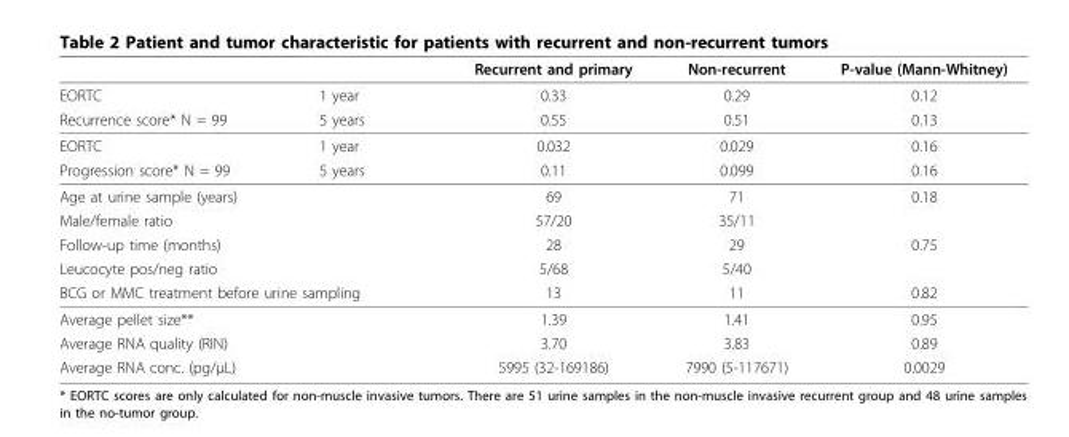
<table><thead><tr><td></td><td></td><td>Recurrent and primary</td><td>Non-recurrent</td><td>P-value (Mann-Whitney)</td></tr></thead><tbody><tr><td>EORTC</td><td>1 year</td><td>0.33</td><td>0.29</td><td>0.12</td></tr><tr><td>Recurrence score* N = 99</td><td>5 years</td><td>0.55</td><td>0.51</td><td>0.13</td></tr><tr><td>EORTC</td><td>1 year</td><td>0.032</td><td>0.029</td><td>0.16</td></tr><tr><td>Progression score* N = 99</td><td>5 years</td><td>0.11</td><td>0.099</td><td>0.16</td></tr><tr><td colspan="2">Age at urine sample (years)</td><td>69</td><td>71</td><td>0.18</td></tr><tr><td colspan="2">Male/female ratio</td><td>57/20</td><td>35/11</td><td></td></tr><tr><td colspan="2">Follow-up time (months)</td><td>28</td><td>29</td><td>0.75</td></tr><tr><td colspan="2">Leucocyte pos/neg ratio</td><td>5/68</td><td>5/40</td><td></td></tr><tr><td colspan="2">BCG or MMC treatment before urine sampling</td><td>13</td><td>11</td><td>0.82</td></tr><tr><td colspan="2">Average pellet size**</td><td>1.39</td><td>1.41</td><td>0.95</td></tr><tr><td colspan="2">Average RNA quality (RIN)</td><td>3.70</td><td>3.83</td><td>0.89</td></tr><tr><td colspan="2">Average RNA conc. (pg/μL)</td><td>5995 (32-169186)</td><td>7990 (5-117671)</td><td>0.0029</td></tr></tbody></table>